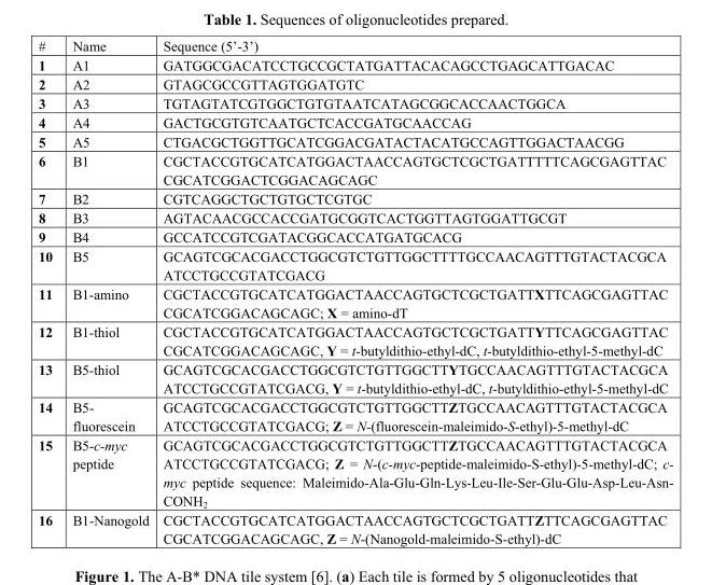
<table><thead><tr><td>#</td><td>Name</td><td>Sequence (5’-3’)</td></tr></thead><tbody><tr><td>1</td><td>A1</td><td>GATGGCGACATCCTGCCGCTATGATTACACAGCCTGAGCATTGACAC</td></tr><tr><td>2</td><td>A2</td><td>GTAGCGCCGTTAGTGGATGTC</td></tr><tr><td>3</td><td>A3</td><td>TGTAGTATCGTGGCTGTGTAATCATAGCGGCACCAACTGGCA</td></tr><tr><td>4</td><td>A4</td><td>GACTGCGTGTCAATGCTCACCGATGCAACCAG</td></tr><tr><td>5</td><td>A5</td><td>CTGACGCTGGTTGCATCGGACGATACTACATGCCAGTTGGACTAACGG</td></tr><tr><td>6</td><td>B1</td><td>CGCTACCGTGCATCATGGACTAACCAGTGCTCGCTGATTTTTCAGCGAGTTAC CGCATCGGACTCGGACAGCAGC</td></tr><tr><td>7</td><td>B2</td><td>CGTCAGGCTGCTGTGCTCGTGC</td></tr><tr><td>8</td><td>B3</td><td>AGTACAACGCCACCGATGCGGTCACTGGTTAGTGGATTGCGT</td></tr><tr><td>9</td><td>B4</td><td>GCCATCCGTCGATACGGCACCATGATGCACG</td></tr><tr><td>10</td><td>B5</td><td>GCAGTCGCACGACCTGGCGTCTGTTGGCTTTTGCCAACAGTTTGTACTACGCA ATCCTGCCGTATCGACG</td></tr><tr><td>11</td><td>B1-amino</td><td>CGCTACCGTGCATCATGGACTAACCAGTGCTCGCTGATTXTTCAGCGAGTTAC CGCATCGGACAGCAGC; X = amino-dT</td></tr><tr><td>12</td><td>B1-thiol</td><td>CGCTACCGTGCATCATGGACTAACCAGTGCTCGCTGATTYTTCAGCGAGTTAC CGCATCGGACAGCAGC, Y = t-butyldithio-ethyl-dC, t-butyldithio-ethyl-5-methyl-dC</td></tr><tr><td>13</td><td>B5-thiol</td><td>GCAGTCGCACGACCTGGCGTCTGTTGGCTTYTGCCAACAGTTTGTACTACGCA ATCCTGCCGTATCGACG, Y = t-butyldithio-ethyl-dC, t-butyldithio-ethyl-5-methyl-dC</td></tr><tr><td>14</td><td>B5- fluorescein</td><td>GCAGTCGCACGACCTGGCGTCTGTTGGCTTZTGCCAACAGTTTGTACTACGCA ATCCTGCCGTATCGACG; Z = N-(fluorescein-maleimido-S-ethyl)-5-methyl-dC</td></tr><tr><td>15</td><td>B5-c-myc peptide</td><td>GCAGTCGCACGACCTGGCGTCTGTTGGCTTZTGCCAACAGTTTGTACTACGCA ATCCTGCCGTATCGACG; Z = N-(c-myc-peptide-maleimido-S-ethyl)-5-methyl-dC; c- myc peptide sequence: Maleimido-Ala-Glu-Gln-Lys-Leu-Ile-Ser-Glu-Glu-Asp-Leu-Asn- CONH<sub>2</sub></td></tr><tr><td>16</td><td>B1-Nanogold</td><td>CGCTACCGTGCATCATGGACTAACCAGTGCTCGCTGATTZTTCAGCGAGTTAC CGCATCGGACAGCAGC, Z = N-(Nanogold-maleimido-S-ethyl)-dC</td></tr></tbody></table>